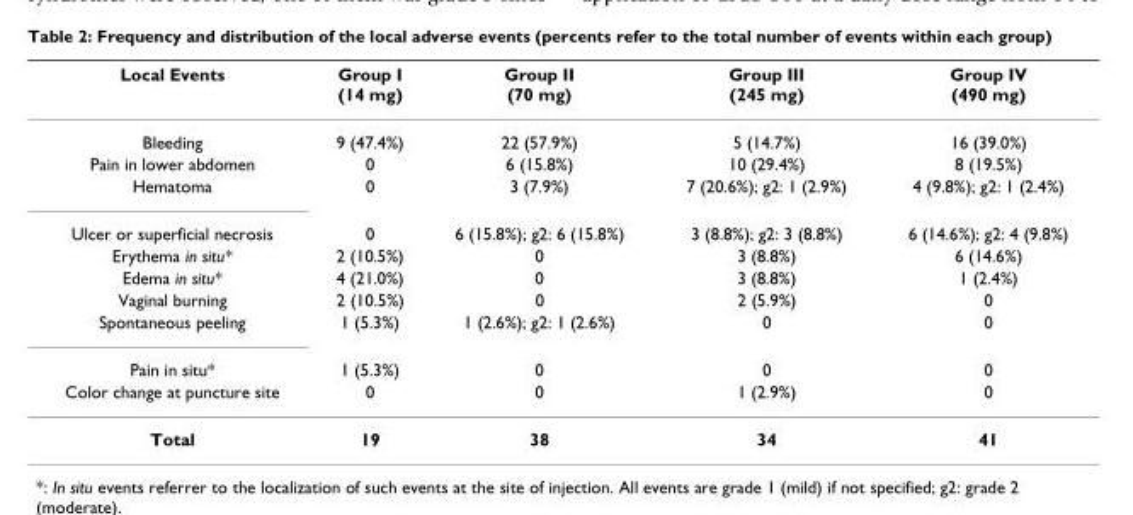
<table><thead><tr><td>Local Events</td><td>Group I (14 mg)</td><td>Group II (70 mg)</td><td>Group III (245 mg)</td><td>Group IV (490 mg)</td></tr></thead><tbody><tr><td>Bleeding</td><td>9 (47.4%)</td><td>22 (57.9%)</td><td>5 (14.7%)</td><td>16 (39.0%)</td></tr><tr><td>Pain in lower abdomen</td><td>0</td><td>6 (15.8%)</td><td>10 (29.4%)</td><td>8 (19.5%)</td></tr><tr><td>Hematoma</td><td>0</td><td>3 (7.9%)</td><td>7 (20.6%); g2: 1 (2.9%)</td><td>4 (9.8%); g2: 1 (2.4%)</td></tr><tr><td>Ulcer or superficial necrosis</td><td>0</td><td>6 (15.8%); g2: 6 (15.8%)</td><td>3 (8.8%); g2: 3 (8.8%)</td><td>6 (14.6%); g2: 4 (9.8%)</td></tr><tr><td>Erythema in situ*</td><td>2 (10.5%)</td><td>0</td><td>3 (8.8%)</td><td>6 (14.6%)</td></tr><tr><td>Edema in situ*</td><td>4 (21.0%)</td><td>0</td><td>3 (8.8%)</td><td>1 (2.4%)</td></tr><tr><td>Vaginal burning</td><td>2 (10.5%)</td><td>0</td><td>2 (5.9%)</td><td>0</td></tr><tr><td>Spontaneous peeling</td><td>1 (5.3%)</td><td>1 (2.6%); g2: 1 (2.6%)</td><td>0</td><td>0</td></tr><tr><td>Pain in situ*</td><td>1 (5.3%)</td><td>0</td><td>0</td><td>0</td></tr><tr><td>Color change at puncture site</td><td>0</td><td>0</td><td>1 (2.9%)</td><td>0</td></tr><tr><td>Total</td><td>19</td><td>38</td><td>34</td><td>41</td></tr></tbody></table>